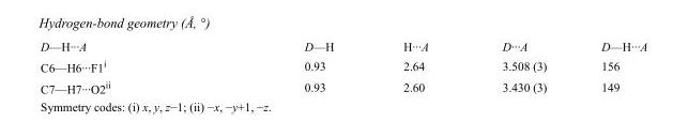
<table><tbody><tr><td>D—H···A</td><td>D—H</td><td>H···A</td><td>D···A</td><td>D—H···A</td></tr><tr><td>C6—H6···F1<sup>i</sup></td><td>0.93</td><td>2.64</td><td>3.508 (3)</td><td>156</td></tr><tr><td>C7—H7···O2<sup>ii</sup></td><td>0.93</td><td>2.60</td><td>3.430 (3)</td><td>149</td></tr></tbody></table>